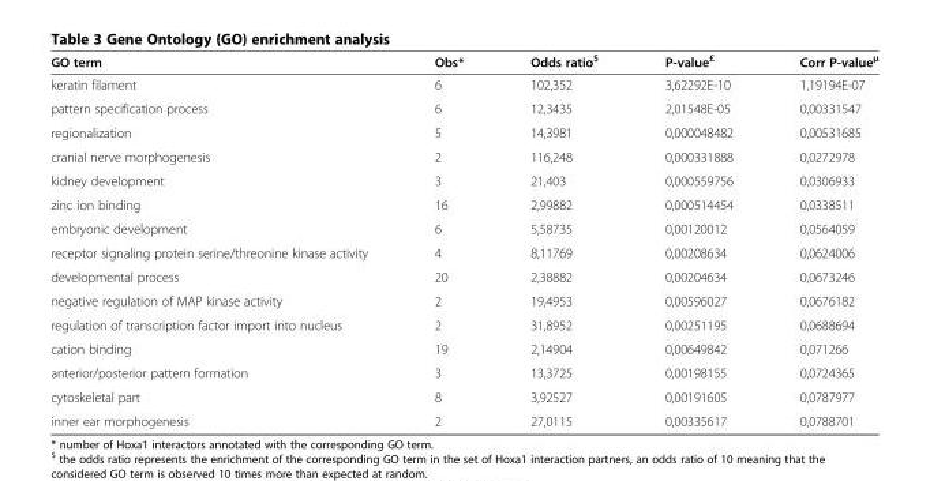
<table><thead><tr><td>GO term</td><td>Obs*</td><td>Odds ratio<sup>$</sup></td><td>P-value<sup>£</sup></td><td>Corr P-value<sup>μ</sup></td></tr></thead><tbody><tr><td>keratin filament</td><td>6</td><td>102,352</td><td>3,62292E-10</td><td>1,19194E-07</td></tr><tr><td>pattern specification process</td><td>6</td><td>12,3435</td><td>2,01548E-05</td><td>0,00331547</td></tr><tr><td>regionalization</td><td>5</td><td>14,3981</td><td>0,000048482</td><td>0,00531685</td></tr><tr><td>cranial nerve morphogenesis</td><td>2</td><td>116,248</td><td>0,000331888</td><td>0,0272978</td></tr><tr><td>kidney development</td><td>3</td><td>21,403</td><td>0,000559756</td><td>0,0306933</td></tr><tr><td>zinc ion binding</td><td>16</td><td>2,99882</td><td>0,000514454</td><td>0,0338511</td></tr><tr><td>embryonic development</td><td>6</td><td>5,58735</td><td>0,00120012</td><td>0,0564059</td></tr><tr><td>receptor signaling protein serine/threonine kinase activity</td><td>4</td><td>8,11769</td><td>0,00208634</td><td>0,0624006</td></tr><tr><td>developmental process</td><td>20</td><td>2,38882</td><td>0,00204634</td><td>0,0673246</td></tr><tr><td>negative regulation of MAP kinase activity</td><td>2</td><td>19,4953</td><td>0,00596027</td><td>0,0676182</td></tr><tr><td>regulation of transcription factor import into nucleus</td><td>2</td><td>31,8952</td><td>0,00251195</td><td>0,0688694</td></tr><tr><td>cation binding</td><td>19</td><td>2,14904</td><td>0,00649842</td><td>0,071266</td></tr><tr><td>anterior/posterior pattern formation</td><td>3</td><td>13,3725</td><td>0,00198155</td><td>0,0724365</td></tr><tr><td>cytoskeletal part</td><td>8</td><td>3,92527</td><td>0,00191605</td><td>0,0787977</td></tr><tr><td>inner ear morphogenesis</td><td>2</td><td>27,0115</td><td>0,00335617</td><td>0,0788701</td></tr></tbody></table>